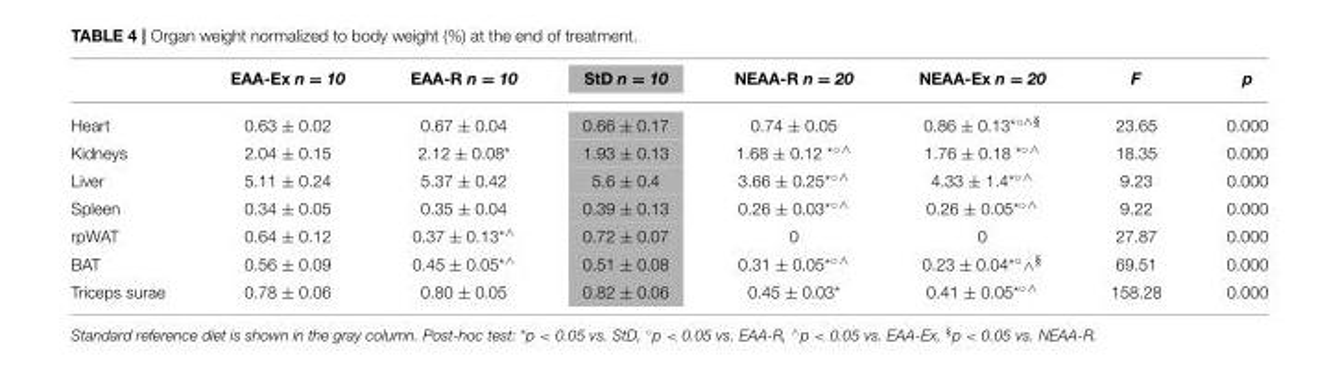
<table><thead><tr><td></td><td>EAA-Ex n = 10</td><td>EAA-R n = 10</td><td>StD n = 10</td><td>NEAA-R n = 20</td><td>NEAA-Ex n = 20</td><td>F</td><td>p</td></tr></thead><tbody><tr><td>Heart</td><td>0.63 ± 0.02</td><td>0.67 ± 0.04</td><td>0.66 ± 0.17</td><td>0.74 ± 0.05</td><td>0.86 ± 0.13*◦∧§</td><td>23.65</td><td>0.000</td></tr><tr><td>Kidneys</td><td>2.04 ± 0.15</td><td>2.12 ± 0.08*</td><td>1.93 ± 0.13</td><td>1.68 ± 0.12 *◦∧</td><td>1.76 ± 0.18 *◦∧</td><td>18.35</td><td>0.000</td></tr><tr><td>Liver</td><td>5.11 ± 0.24</td><td>5.37 ± 0.42</td><td>5.6 ± 0.4</td><td>3.66 ± 0.25*◦∧</td><td>4.33 ± 1.4*◦∧</td><td>9.23</td><td>0.000</td></tr><tr><td>Spleen</td><td>0.34 ± 0.05</td><td>0.35 ± 0.04</td><td>0.39 ± 0.13</td><td>0.26 ± 0.03*◦∧</td><td>0.26 ± 0.05*◦∧</td><td>9.22</td><td>0.000</td></tr><tr><td>rpWAT</td><td>0.64 ± 0.12</td><td>0.37 ± 0.13*∧</td><td>0.72 ± 0.07</td><td>0</td><td>0</td><td>27.87</td><td>0.000</td></tr><tr><td>BAT</td><td>0.56 ± 0.09</td><td>0.45 ± 0.05*∧</td><td>0.51 ± 0.08</td><td>0.31 ± 0.05*◦∧</td><td>0.23 ± 0.04*◦∧§</td><td>69.51</td><td>0.000</td></tr><tr><td>Triceps surae</td><td>0.78 ± 0.06</td><td>0.80 ± 0.05</td><td>0.82 ± 0.06</td><td>0.45 ± 0.03*</td><td>0.41 ± 0.05*◦∧</td><td>158.28</td><td>0.000</td></tr></tbody></table>